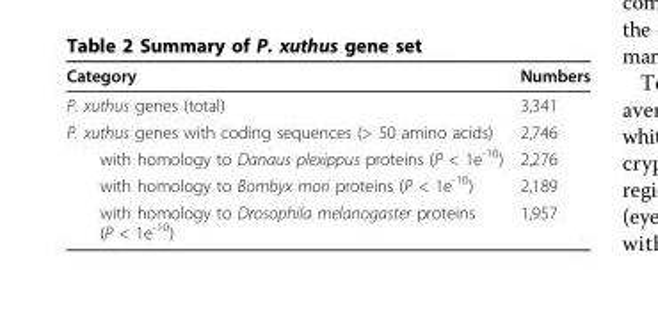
<table><thead><tr><td>Category</td><td>Numbers</td></tr></thead><tbody><tr><td>P. xuthus genes (total)</td><td>3,341</td></tr><tr><td>P. xuthus genes with coding sequences (&gt; 50 amino acids)</td><td>2,746</td></tr><tr><td>with homology to Danaus plexippus proteins (P &lt; 1e<sup>-10</sup>)</td><td>2,276</td></tr><tr><td>with homology to Bombyx mori proteins (P &lt; 1e<sup>-10</sup>)</td><td>2,189</td></tr><tr><td>with homology to Drosophila melanogaster proteins (P &lt; 1e<sup>-10</sup>)</td><td>1,957</td></tr></tbody></table>